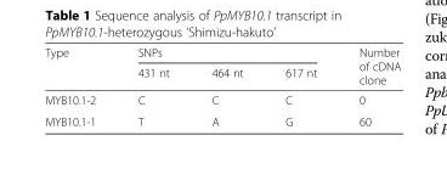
<table><thead><tr><td rowspan="2">Type</td><td colspan="3">SNPs</td><td rowspan="2">Number of cDNA clone</td></tr><tr><td>431 nt</td><td>464 nt</td><td>617 nt</td></tr></thead><tbody><tr><td>MYB10.1-2</td><td>C</td><td>C</td><td>C</td><td>0</td></tr><tr><td>MYB10.1-1</td><td>T</td><td>A</td><td>G</td><td>60</td></tr></tbody></table>